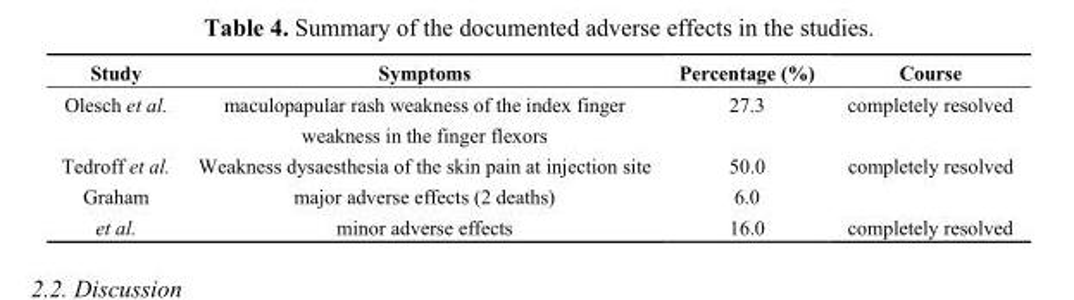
<table><thead><tr><td>Study</td><td>Symptoms</td><td>Percentage (%)</td><td>Course</td></tr></thead><tbody><tr><td>Olesch et al.</td><td>maculopapular rash weakness of the index finger weakness in the finger flexors</td><td>27.3</td><td>completely resolved</td></tr><tr><td>Tedroff et al.</td><td>Weakness dysaesthesia of the skin pain at injection site</td><td>50.0</td><td>completely resolved</td></tr><tr><td rowspan="2">Graham et al.</td><td>major adverse effects (2 deaths)</td><td>6.0</td><td></td></tr><tr><td>minor adverse effects</td><td>16.0</td><td>completely resolved</td></tr></tbody></table>